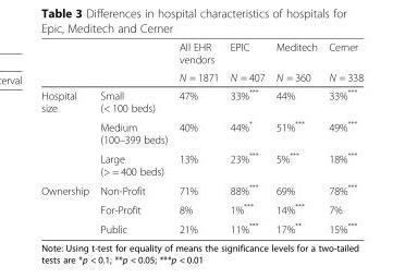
<table><thead><tr><td rowspan="2"></td><td rowspan="2"></td><td rowspan="2">All EHR vendors N = 1871</td><td rowspan="2">EPIC N = 407</td><td rowspan="2">Meditech N = 360</td><td rowspan="2">Cerner N = 338</td></tr><tr></tr></thead><tbody><tr><td rowspan="3">Hospital size</td><td>Small (&lt; 100 beds)</td><td>47%</td><td>33%***</td><td>44%</td><td>33%***</td></tr><tr><td>Medium (100–399 beds)</td><td>40%</td><td>44%*</td><td>51%***</td><td>49%***</td></tr><tr><td>Large (&gt; = 400 beds)</td><td>13%</td><td>23%***</td><td>5%***</td><td>18%***</td></tr><tr><td rowspan="3">Ownership</td><td>Non-Profit</td><td>71%</td><td>88%***</td><td>69%</td><td>78%***</td></tr><tr><td>For-Profit</td><td>8%</td><td>1%***</td><td>14%***</td><td>7%</td></tr><tr><td>Public</td><td>21%</td><td>11%***</td><td>17%**</td><td>15%***</td></tr></tbody></table>